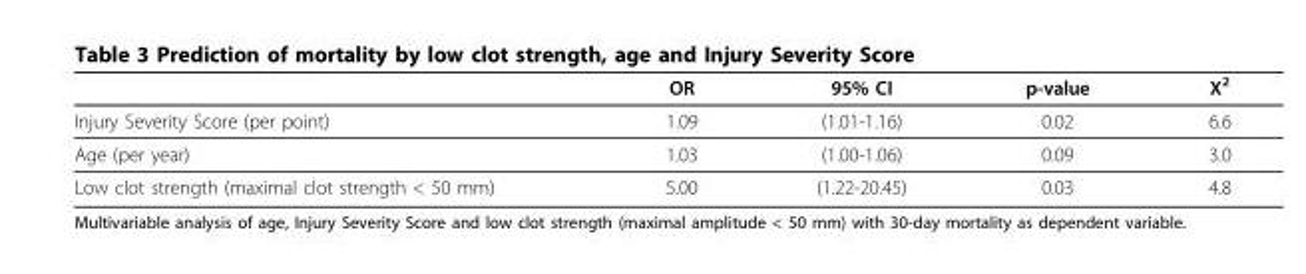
<table><thead><tr><td></td><td>OR</td><td>95% CI</td><td>p-value</td><td>X<sup>2</sup></td></tr></thead><tbody><tr><td>Injury Severity Score (per point)</td><td>1.09</td><td>(1.01-1.16)</td><td>0.02</td><td>6.6</td></tr><tr><td>Age (per year)</td><td>1.03</td><td>(1.00-1.06)</td><td>0.09</td><td>3.0</td></tr><tr><td>Low clot strength (maximal clot strength &lt; 50 mm)</td><td>5.00</td><td>(1.22-20.45)</td><td>0.03</td><td>4.8</td></tr></tbody></table>